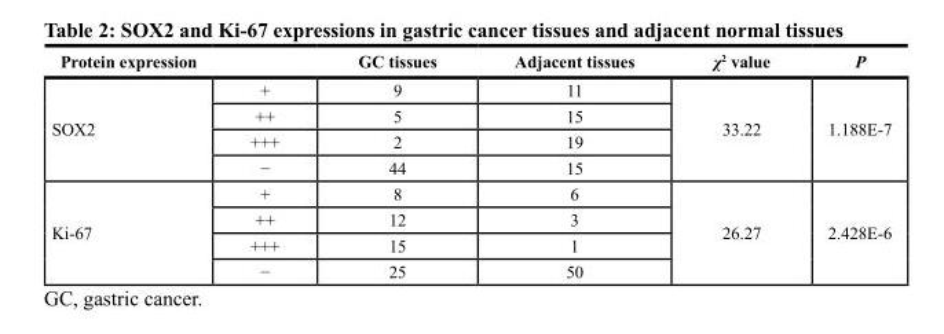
<table><thead><tr><td>Protein expression</td><td></td><td>GC tissues</td><td>Adjacent tissues</td><td>χ2 value</td><td>P</td></tr></thead><tbody><tr><td rowspan="4">SOX2</td><td>+</td><td>9</td><td>11</td><td rowspan="4">33.22</td><td rowspan="4">1.188E-7</td></tr><tr><td>++</td><td>5</td><td>15</td></tr><tr><td>+++</td><td>2</td><td>19</td></tr><tr><td>−</td><td>44</td><td>15</td></tr><tr><td rowspan="4">Ki-67</td><td>+</td><td>8</td><td>6</td><td rowspan="4">26.27</td><td rowspan="4">2.428E-6</td></tr><tr><td>++</td><td>12</td><td>3</td></tr><tr><td>+++</td><td>15</td><td>1</td></tr><tr><td>−</td><td>25</td><td>50</td></tr></tbody></table>